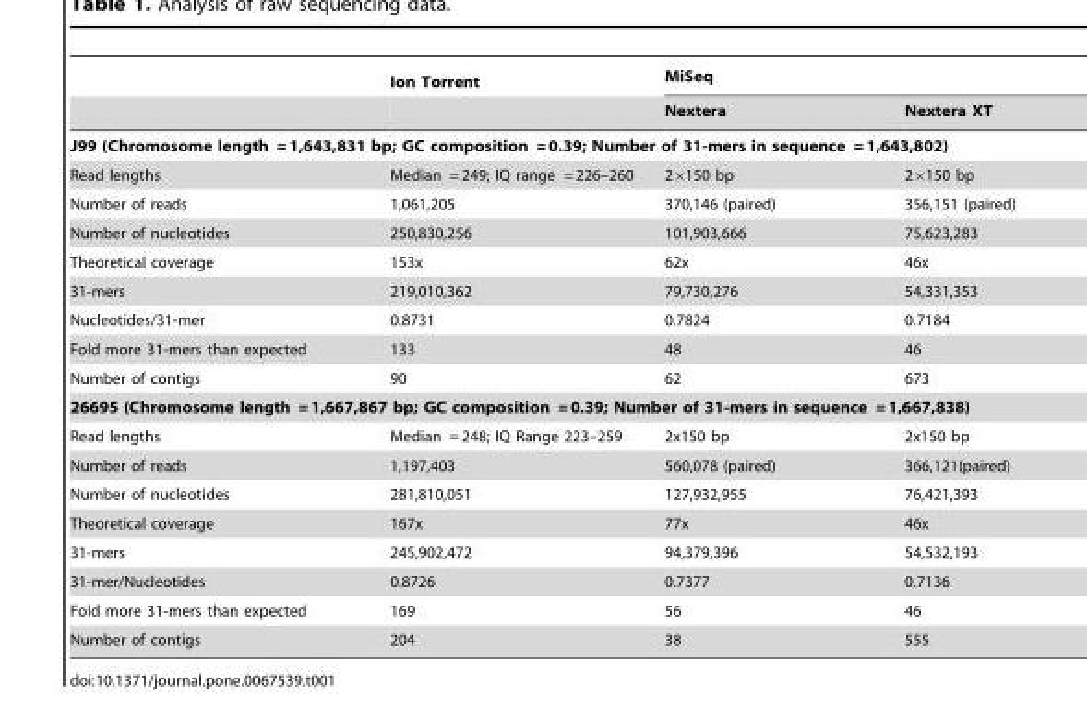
<table><thead><tr><td rowspan="2"></td><td rowspan="2">Ion Torrent</td><td colspan="2">MiSeq</td></tr><tr><td>Nextera</td><td>Nextera XT</td></tr></thead><tbody><tr><td colspan="4">J99 (Chromosome length = 1,643,831 bp; GC composition = 0.39; Number of 31-mers in sequence = 1,643,802)</td></tr><tr><td>Read lengths</td><td>Median = 249; IQ range = 226–260</td><td>2×150 bp</td><td>2×150 bp</td></tr><tr><td>Number of reads</td><td>1,061,205</td><td>370,146 (paired)</td><td>356,151 (paired)</td></tr><tr><td>Number of nucleotides</td><td>250,830,256</td><td>101,903,666</td><td>75,623,283</td></tr><tr><td>Theoretical coverage</td><td>153x</td><td>62x</td><td>46x</td></tr><tr><td>31-mers</td><td>219,010,362</td><td>79,730,276</td><td>54,331,353</td></tr><tr><td>Nucleotides/31-mer</td><td>0.8731</td><td>0.7824</td><td>0.7184</td></tr><tr><td>Fold more 31-mers than expected</td><td>133</td><td>48</td><td>46</td></tr><tr><td>Number of contigs</td><td>90</td><td>62</td><td>673</td></tr><tr><td colspan="4">26695 (Chromosome length = 1,667,867 bp; GC composition = 0.39; Number of 31-mers in sequence = 1,667,838)</td></tr><tr><td>Read lengths</td><td>Median = 248; IQ Range 223–259</td><td>2x150 bp</td><td>2x150 bp</td></tr><tr><td>Number of reads</td><td>1,197,403</td><td>560,078 (paired)</td><td>366,121(paired)</td></tr><tr><td>Number of nucleotides</td><td>281,810,051</td><td>127,932,955</td><td>76,421,393</td></tr><tr><td>Theoretical coverage</td><td>167x</td><td>77x</td><td>46x</td></tr><tr><td>31-mers</td><td>245,902,472</td><td>94,379,396</td><td>54,532,193</td></tr><tr><td>31-mer/Nucleotides</td><td>0.8726</td><td>0.7377</td><td>0.7136</td></tr><tr><td>Fold more 31-mers than expected</td><td>169</td><td>56</td><td>46</td></tr><tr><td>Number of contigs</td><td>204</td><td>38</td><td>555</td></tr></tbody></table>